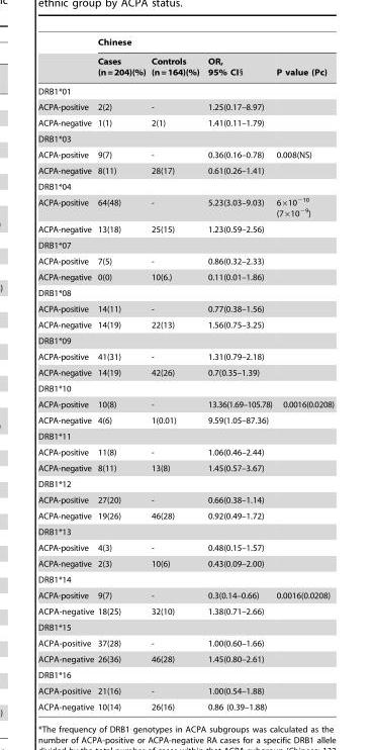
<table><thead><tr><td rowspan="2"></td><td colspan="4">Chinese</td></tr><tr><td>Cases (n=204)(%)</td><td>Controls (n=164)(%)</td><td>OR, 95% CI§</td><td>P value (Pc)</td></tr></thead><tbody><tr><td colspan="5">DRB1*01</td></tr><tr><td>ACPA-positive</td><td>2(2)</td><td>-</td><td>1.25(0.17–8.97)</td><td></td></tr><tr><td>ACPA-negative</td><td>1(1)</td><td>2(1)</td><td>1.41(0.11–1.79)</td><td></td></tr><tr><td colspan="5">DRB1*03</td></tr><tr><td>ACPA-positive</td><td>9(7)</td><td>-</td><td>0.36(0.16–0.78)</td><td>0.008(NS)</td></tr><tr><td>ACPA-negative</td><td>8(11)</td><td>28(17)</td><td>0.61(0.26–1.41)</td><td></td></tr><tr><td colspan="5">DRB1*04</td></tr><tr><td>ACPA-positive</td><td>64(48)</td><td>-</td><td>5.23(3.03–9.03)</td><td>6×10<sup>−10</sup> (7×10<sup>−9</sup>)</td></tr><tr><td>ACPA-negative</td><td>13(18)</td><td>25(15)</td><td>1.23(0.59–2.56)</td><td></td></tr><tr><td colspan="5">DRB1*07</td></tr><tr><td>ACPA-positive</td><td>7(5)</td><td>-</td><td>0.86(0.32–2.33)</td><td></td></tr><tr><td>ACPA-negative</td><td>0(0)</td><td>10(6.)</td><td>0.11(0.01–1.86)</td><td></td></tr><tr><td colspan="5">DRB1*08</td></tr><tr><td>ACPA-positive</td><td>14(11)</td><td>-</td><td>0.77(0.38–1.56)</td><td></td></tr><tr><td>ACPA-negative</td><td>14(19)</td><td>22(13)</td><td>1.56(0.75–3.25)</td><td></td></tr><tr><td colspan="5">DRB1*09</td></tr><tr><td>ACPA-positive</td><td>41(31)</td><td>-</td><td>1.31(0.79–2.18)</td><td></td></tr><tr><td>ACPA-negative</td><td>14(19)</td><td>42(26)</td><td>0.7(0.35–1.39)</td><td></td></tr><tr><td colspan="5">DRB1*10</td></tr><tr><td>ACPA-positive</td><td>10(8)</td><td>-</td><td>13.36(1.69–105.78)</td><td>0.0016(0.0208)</td></tr><tr><td>ACPA-negative</td><td>4(6)</td><td>1(0.01)</td><td>9.59(1.05–87.36)</td><td></td></tr><tr><td colspan="5">DRB1*11</td></tr><tr><td>ACPA-positive</td><td>11(8)</td><td>-</td><td>1.06(0.46–2.44)</td><td></td></tr><tr><td>ACPA-negative</td><td>8(11)</td><td>13(8)</td><td>1.45(0.57–3.67)</td><td></td></tr><tr><td colspan="5">DRB1*12</td></tr><tr><td>ACPA-positive</td><td>27(20)</td><td>-</td><td>0.66(0.38–1.14)</td><td></td></tr><tr><td>ACPA-negative</td><td>19(26)</td><td>46(28)</td><td>0.92(0.49–1.72)</td><td></td></tr><tr><td colspan="5">DRB1*13</td></tr><tr><td>ACPA-positive</td><td>4(3)</td><td>-</td><td>0.48(0.15–1.57)</td><td></td></tr><tr><td>ACPA-negative</td><td>2(3)</td><td>10(6)</td><td>0.43(0.09–2.00)</td><td></td></tr><tr><td colspan="5">DRB1*14</td></tr><tr><td>ACPA-positive</td><td>9(7)</td><td>-</td><td>0.3(0.14–0.66)</td><td>0.0016(0.0208)</td></tr><tr><td>ACPA-negative</td><td>18(25)</td><td>32(10)</td><td>1.38(0.71–2.66)</td><td></td></tr><tr><td colspan="5">DRB1*15</td></tr><tr><td>ACPA-positive</td><td>37(28)</td><td>-</td><td>1.00(0.60–1.66)</td><td></td></tr><tr><td>ACPA-negative</td><td>26(36)</td><td>46(28)</td><td>1.45(0.80–2.61)</td><td></td></tr><tr><td colspan="5">DRB1*16</td></tr><tr><td>ACPA-positive</td><td>21(16)</td><td>-</td><td>1.00(0.54–1.88)</td><td></td></tr><tr><td>ACPA-negative</td><td>10(14)</td><td>26(16)</td><td>0.86 (0.39–1.88)</td><td></td></tr></tbody></table>